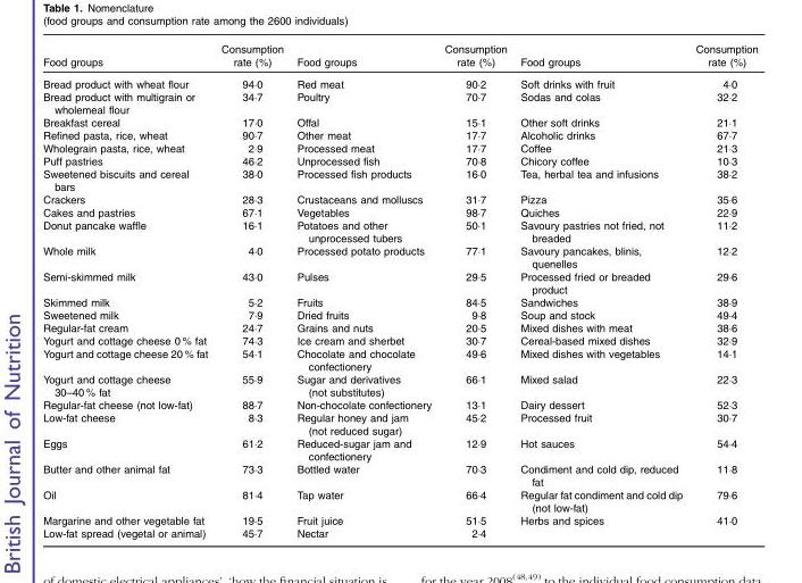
<table><thead><tr><td>Food groups</td><td>Consumption rate (%)</td><td>Food groups</td><td>Consumption rate (%)</td><td>Food groups</td><td>Consumption rate (%)</td></tr></thead><tbody><tr><td>Bread product with wheat flour</td><td>94·0</td><td>Red meat</td><td>90·2</td><td>Soft drinks with fruit</td><td>4·0</td></tr><tr><td>Bread product with multigrain or wholemeal flour</td><td>34·7</td><td>Poultry</td><td>70·7</td><td>Sodas and colas</td><td>32·2</td></tr><tr><td>Breakfast cereal</td><td>17·0</td><td>Offal</td><td>15·1</td><td>Other soft drinks</td><td>21·1</td></tr><tr><td>Refined pasta, rice, wheat</td><td>90·7</td><td>Other meat</td><td>17·7</td><td>Alcoholic drinks</td><td>67·7</td></tr><tr><td>Wholegrain pasta, rice, wheat</td><td>2·9</td><td>Processed meat</td><td>17·7</td><td>Coffee</td><td>21·3</td></tr><tr><td>Puff pastries</td><td>46·2</td><td>Unprocessed fish</td><td>70·8</td><td>Chicory coffee</td><td>10·3</td></tr><tr><td>Sweetened biscuits and cereal bars</td><td>38·0</td><td>Processed fish products</td><td>16·0</td><td>Tea, herbal tea and infusions</td><td>38·2</td></tr><tr><td>Crackers</td><td>28·3</td><td>Crustaceans and molluscs</td><td>31·7</td><td>Pizza</td><td>35·6</td></tr><tr><td>Cakes and pastries</td><td>67·1</td><td>Vegetables</td><td>98·7</td><td>Quiches</td><td>22·9</td></tr><tr><td>Donut pancake waffle</td><td>16·1</td><td>Potatoes and other unprocessed tubers</td><td>50·1</td><td>Savoury pastries not fried, not breaded</td><td>11·2</td></tr><tr><td>Whole milk</td><td>4·0</td><td>Processed potato products</td><td>77·1</td><td>Savoury pancakes, blinis, quenelles</td><td>12·2</td></tr><tr><td>Semi-skimmed milk</td><td>43·0</td><td>Pulses</td><td>29·5</td><td>Processed fried or breaded product</td><td>29·6</td></tr><tr><td>Skimmed milk</td><td>5·2</td><td>Fruits</td><td>84·5</td><td>Sandwiches</td><td>38·9</td></tr><tr><td>Sweetened milk</td><td>7·9</td><td>Dried fruits</td><td>9·8</td><td>Soup and stock</td><td>49·4</td></tr><tr><td>Regular-fat cream</td><td>24·7</td><td>Grains and nuts</td><td>20·5</td><td>Mixed dishes with meat</td><td>38·6</td></tr><tr><td>Yogurt and cottage cheese 0 % fat</td><td>74·3</td><td>Ice cream and sherbet</td><td>30·7</td><td>Cereal-based mixed dishes</td><td>32·9</td></tr><tr><td>Yogurt and cottage cheese 20 % fat</td><td>54·1</td><td>Chocolate and chocolate confectionery</td><td>49·6</td><td>Mixed dishes with vegetables</td><td>14·1</td></tr><tr><td>Yogurt and cottage cheese 30–40 % fat</td><td>55·9</td><td>Sugar and derivatives (not substitutes)</td><td>66·1</td><td>Mixed salad</td><td>22·3</td></tr><tr><td>Regular-fat cheese (not low-fat)</td><td>88·7</td><td>Non-chocolate confectionery</td><td>13·1</td><td>Dairy dessert</td><td>52·3</td></tr><tr><td>Low-fat cheese</td><td>8·3</td><td>Regular honey and jam (not reduced sugar)</td><td>45·2</td><td>Processed fruit</td><td>30·7</td></tr><tr><td>Eggs</td><td>61·2</td><td>Reduced-sugar jam and confectionery</td><td>12·9</td><td>Hot sauces</td><td>54·4</td></tr><tr><td>Butter and other animal fat</td><td>73·3</td><td>Bottled water</td><td>70·3</td><td>Condiment and cold dip, reduced fat</td><td>11·8</td></tr><tr><td>Oil</td><td>81·4</td><td>Tap water</td><td>66·4</td><td>Regular fat condiment and cold dip (not low-fat)</td><td>79·6</td></tr><tr><td>Margarine and other vegetable fat</td><td>19·5</td><td>Fruit juice</td><td>51·5</td><td>Herbs and spices</td><td>41·0</td></tr><tr><td>Low-fat spread (vegetal or animal)</td><td>45·7</td><td>Nectar</td><td>2·4</td><td></td><td></td></tr></tbody></table>